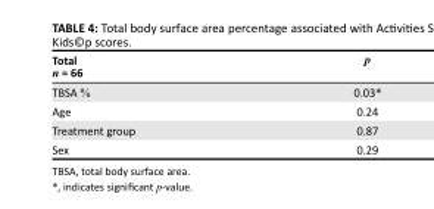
<table><thead><tr><td>Total n = 66</td><td>p</td></tr></thead><tbody><tr><td>TBSA %</td><td>0.03*</td></tr><tr><td>Age</td><td>0.24</td></tr><tr><td>Treatment group</td><td>0.87</td></tr><tr><td>Sex</td><td>0.29</td></tr></tbody></table>